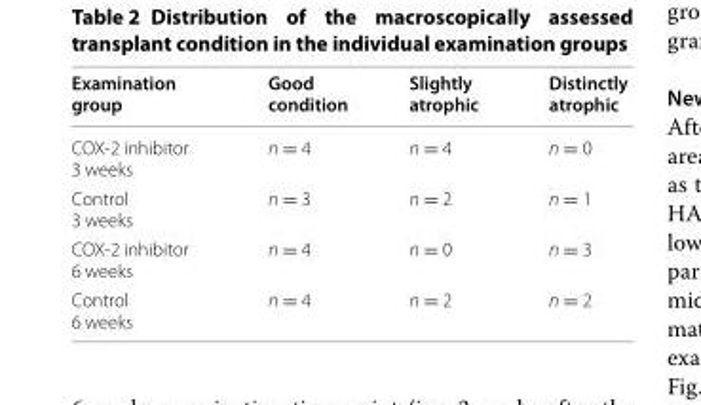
<table><thead><tr><td>Examination group</td><td>Good condition</td><td>Slightly atrophic</td><td>Distinctly atrophic</td></tr></thead><tbody><tr><td>COX‑2 inhibitor 3 weeks</td><td>n = 4</td><td>n = 4</td><td>n = 0</td></tr><tr><td>Control 3 weeks</td><td>n = 3</td><td>n = 2</td><td>n = 1</td></tr><tr><td>COX‑2 inhibitor 6 weeks</td><td>n = 4</td><td>n = 0</td><td>n = 3</td></tr><tr><td>Control 6 weeks</td><td>n = 4</td><td>n = 2</td><td>n = 2</td></tr></tbody></table>